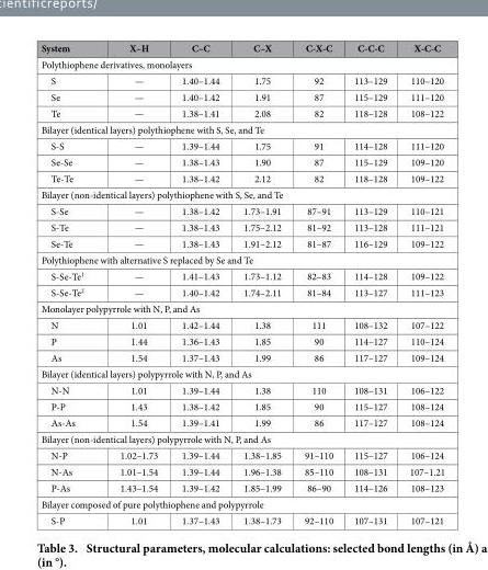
<table><thead><tr><td>System</td><td>X–H</td><td>C–C</td><td>C–X</td><td>C-X-C</td><td>C-C-C</td><td>X-C-C</td></tr></thead><tbody><tr><td colspan="7">Polythiophene derivatives, monolayers</td></tr><tr><td>S</td><td>—</td><td>1.40–1.44</td><td>1.75</td><td>92</td><td>113–129</td><td>110–120</td></tr><tr><td>Se</td><td>—</td><td>1.40–1.42</td><td>1.91</td><td>87</td><td>115–129</td><td>111–120</td></tr><tr><td>Te</td><td>—</td><td>1.38–1.41</td><td>2.08</td><td>82</td><td>118–128</td><td>108–122</td></tr><tr><td colspan="7">Bilayer (identical layers) polythiophene with S, Se, and Te</td></tr><tr><td>S-S</td><td>—</td><td>1.39–1.44</td><td>1.75</td><td>91</td><td>114–128</td><td>111–120</td></tr><tr><td>Se-Se</td><td>—</td><td>1.38–1.43</td><td>1.90</td><td>87</td><td>115–129</td><td>109–120</td></tr><tr><td>Te-Te</td><td>—</td><td>1.38–1.42</td><td>2.12</td><td>82</td><td>118–128</td><td>109–122</td></tr><tr><td colspan="7">Bilayer (non-identical layers) polythiophene with S, Se, and Te</td></tr><tr><td>S-Se</td><td>—</td><td>1.38–1.42</td><td>1.73–1.91</td><td>87–91</td><td>113–129</td><td>110–121</td></tr><tr><td>S-Te</td><td>—</td><td>1.38–1.43</td><td>1.75–2.12</td><td>81–92</td><td>113–128</td><td>111–121</td></tr><tr><td>Se-Te</td><td>—</td><td>1.38–1.43</td><td>1.91–2.12</td><td>81–87</td><td>116–129</td><td>109–122</td></tr><tr><td colspan="7">Polythiophene with alternative S replaced by Se and Te</td></tr><tr><td>S-Se-Te<sup>1</sup></td><td>—</td><td>1.41–1.43</td><td>1.73–1.12</td><td>82–83</td><td>114–128</td><td>109–122</td></tr><tr><td>S-Se-Te<sup>2</sup></td><td>—</td><td>1.40–1.42</td><td>1.74–2.11</td><td>81–84</td><td>113–127</td><td>111–123</td></tr><tr><td colspan="7">Monolayer polypyrrole with N, P, and As</td></tr><tr><td>N</td><td>1.01</td><td>1.42–1.44</td><td>1.38</td><td>111</td><td>108–132</td><td>107–122</td></tr><tr><td>P</td><td>1.44</td><td>1.36–1.43</td><td>1.85</td><td>90</td><td>114–127</td><td>110–124</td></tr><tr><td>As</td><td>1.54</td><td>1.37–1.43</td><td>1.99</td><td>86</td><td>117–127</td><td>109–124</td></tr><tr><td colspan="7">Bilayer (identical layers) polypyrrole with N, P, and As</td></tr><tr><td>N-N</td><td>1.01</td><td>1.39–1.44</td><td>1.38</td><td>110</td><td>108–131</td><td>106–122</td></tr><tr><td>P-P</td><td>1.43</td><td>1.38–1.42</td><td>1.85</td><td>90</td><td>115–127</td><td>108–124</td></tr><tr><td>As-As</td><td>1.54</td><td>1.39–1.41</td><td>1.99</td><td>86</td><td>117–127</td><td>108–124</td></tr><tr><td colspan="7">Bilayer (non-identical layers) polypyrrole with N, P, and As</td></tr><tr><td>N-P</td><td>1.02–1.73</td><td>1.39–1.44</td><td>1.38–1.85</td><td>91–110</td><td>115–127</td><td>106–124</td></tr><tr><td>N-As</td><td>1.01–1.54</td><td>1.39–1.44</td><td>1.96–1.38</td><td>85–110</td><td>108–131</td><td>107–1.21</td></tr><tr><td>P-As</td><td>1.43–1.54</td><td>1.39–1.42</td><td>1.85–1.99</td><td>86–90</td><td>114–126</td><td>108–123</td></tr><tr><td colspan="7">Bilayer composed of pure polythiophene and polypyrrole</td></tr><tr><td>S-P</td><td>1.01</td><td>1.37–1.43</td><td>1.38–1.73</td><td>92–110</td><td>107–131</td><td>107–121</td></tr></tbody></table>